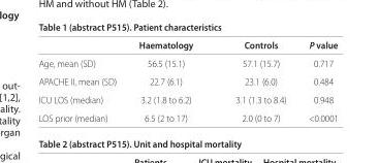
<table><thead><tr><td></td><td>Haematology</td><td>Controls</td><td>P value</td></tr></thead><tbody><tr><td>Age, mean (SD)</td><td>56.5 (15.1)</td><td>57.1 (15.7)</td><td>0.717</td></tr><tr><td>APACHE II, mean (SD)</td><td>22.7 (6.1)</td><td>23.1 (6.0)</td><td>0.484</td></tr><tr><td>ICU LOS (median)</td><td>3.2 (1.8 to 6.2)</td><td>3.1 (1.3 to 8.4)</td><td>0.948</td></tr><tr><td>LOS prior (median)</td><td>6.5 (2 to 17)</td><td>2.0 (0 to 7)</td><td>&lt;0.0001</td></tr></tbody></table>